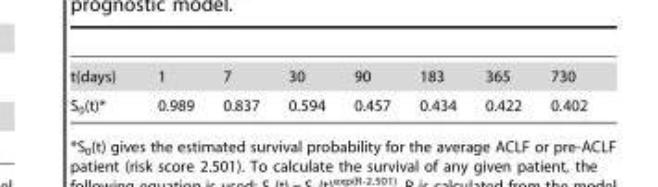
<table><tbody><tr><td>t(days)</td><td>1</td><td>7</td><td>30</td><td>90</td><td>183</td><td>365</td><td>730</td></tr><tr><td>S<sub>0</sub>(t)*</td><td>0.989</td><td>0.837</td><td>0.594</td><td>0.457</td><td>0.434</td><td>0.422</td><td>0.402</td></tr></tbody></table>